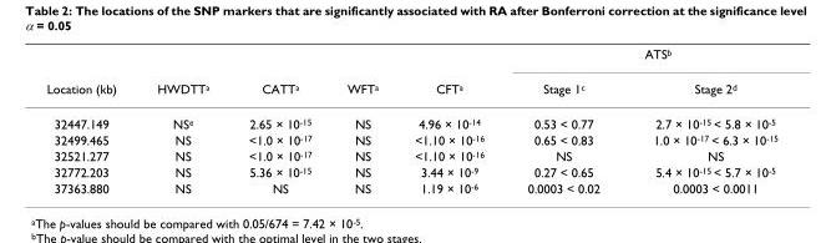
<table><thead><tr><td rowspan="2">Location (kb)</td><td rowspan="2">HWDTT<sup>a</sup></td><td rowspan="2">CATT<sup>a</sup></td><td rowspan="2">WFT<sup>a</sup></td><td rowspan="2">CFT<sup>a</sup></td><td colspan="2">ATS<sup>b</sup></td></tr><tr><td>Stage 1<sup>c</sup></td><td>Stage 2<sup>d</sup></td></tr></thead><tbody><tr><td>32447.149</td><td>NS<sup>e</sup></td><td>2.65 × 10<sup>-15</sup></td><td>NS</td><td>4.96 × 10<sup>-14</sup></td><td>0.53 &lt; 0.77</td><td>2.7 × 10<sup>-15</sup> &lt; 5.8 × 10<sup>-5</sup></td></tr><tr><td>32499.465</td><td>NS</td><td>&lt;1.0 × 10<sup>-17</sup></td><td>NS</td><td>&lt;1.10 × 10<sup>-16</sup></td><td>0.65 &lt; 0.83</td><td>1.0 × 10<sup>-17</sup> &lt; 6.3 × 10<sup>-15</sup></td></tr><tr><td>32521.277</td><td>NS</td><td>&lt;1.0 × 10<sup>-17</sup></td><td>NS</td><td>&lt;1.10 × 10<sup>-16</sup></td><td>NS</td><td>NS</td></tr><tr><td>32772.203</td><td>NS</td><td>5.36 × 10<sup>-15</sup></td><td>NS</td><td>3.44 × 10<sup>-9</sup></td><td>0.27 &lt; 0.65</td><td>5.4 × 10<sup>-15</sup> &lt; 5.7 × 10<sup>-5</sup></td></tr><tr><td>37363.880</td><td>NS</td><td>NS</td><td>NS</td><td>1.19 × 10<sup>-6</sup></td><td>0.0003 &lt; 0.02</td><td>0.0003 &lt; 0.0011</td></tr></tbody></table>